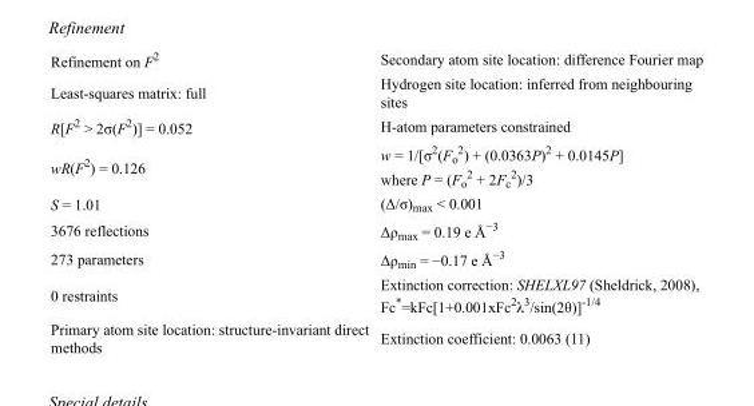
<table><tbody><tr><td>Refinement on F<sup>2</sup></td><td>Secondary atom site location: difference Fourier map</td></tr><tr><td>Least-squares matrix: full</td><td>Hydrogen site location: inferred from neighbouring sites</td></tr><tr><td>R[F<sup>2</sup> &gt; 2σ(F<sup>2</sup>)] = 0.052</td><td>H-atom parameters constrained</td></tr><tr><td>wR(F<sup>2</sup>) = 0.126</td><td>w = 1/[σ<sup>2</sup>(F<sub>o</sub> <sup>2</sup>) + (0.0363P)<sup>2</sup> + 0.0145P] where P = (F<sub>o</sub> <sup>2</sup> + 2F<sub>c</sub> <sup>2</sup>)/3</td></tr><tr><td>S = 1.01</td><td>(Δ/σ)<sub>max</sub> &lt; 0.001</td></tr><tr><td>3676 reflections</td><td>Δρ<sub>max</sub> = 0.19 e Å<sup>−3</sup></td></tr><tr><td>273 parameters</td><td>Δρmin = −0.17 e Å−3</td></tr><tr><td>0 restraints</td><td>Extinction correction: SHELXL97 (Sheldrick, 2008), Fc*=kFc[1+0.001xFc<sup>2</sup>λ<sup>3</sup>/sin(2θ)]<sup>-1/4</sup></td></tr><tr><td>Primary atom site location: structure-invariant direct methods</td><td>Extinction coefficient: 0.0063 (11)</td></tr></tbody></table>